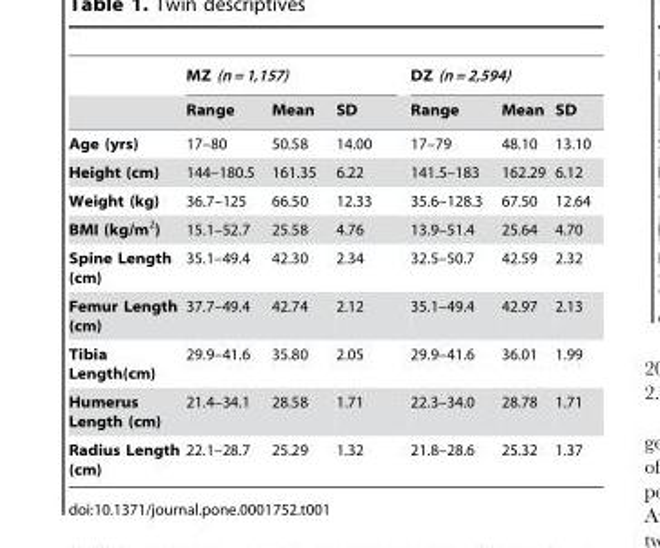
<table><thead><tr><td rowspan="2"></td><td colspan="3">MZ (n = 1,157)</td><td colspan="3">DZ (n = 2,594)</td></tr><tr><td>Range</td><td>Mean</td><td>SD</td><td>Range</td><td>Mean</td><td>SD</td></tr></thead><tbody><tr><td>Age (yrs)</td><td>17–80</td><td>50.58</td><td>14.00</td><td>17–79</td><td>48.10</td><td>13.10</td></tr><tr><td>Height (cm)</td><td>144–180.5</td><td>161.35</td><td>6.22</td><td>141.5–183</td><td>162.29</td><td>6.12</td></tr><tr><td>Weight (kg)</td><td>36.7–125</td><td>66.50</td><td>12.33</td><td>35.6–128.3</td><td>67.50</td><td>12.64</td></tr><tr><td>BMI (kg/m<sup>2</sup>)</td><td>15.1–52.7</td><td>25.58</td><td>4.76</td><td>13.9–51.4</td><td>25.64</td><td>4.70</td></tr><tr><td>Spine Length (cm)</td><td>35.1–49.4</td><td>42.30</td><td>2.34</td><td>32.5–50.7</td><td>42.59</td><td>2.32</td></tr><tr><td>Femur Length (cm)</td><td>37.7–49.4</td><td>42.74</td><td>2.12</td><td>35.1–49.4</td><td>42.97</td><td>2.13</td></tr><tr><td>Tibia Length(cm)</td><td>29.9–41.6</td><td>35.80</td><td>2.05</td><td>29.9–41.6</td><td>36.01</td><td>1.99</td></tr><tr><td>Humerus Length (cm)</td><td>21.4–34.1</td><td>28.58</td><td>1.71</td><td>22.3–34.0</td><td>28.78</td><td>1.71</td></tr><tr><td>Radius Length (cm)</td><td>22.1–28.7</td><td>25.29</td><td>1.32</td><td>21.8–28.6</td><td>25.32</td><td>1.37</td></tr></tbody></table>